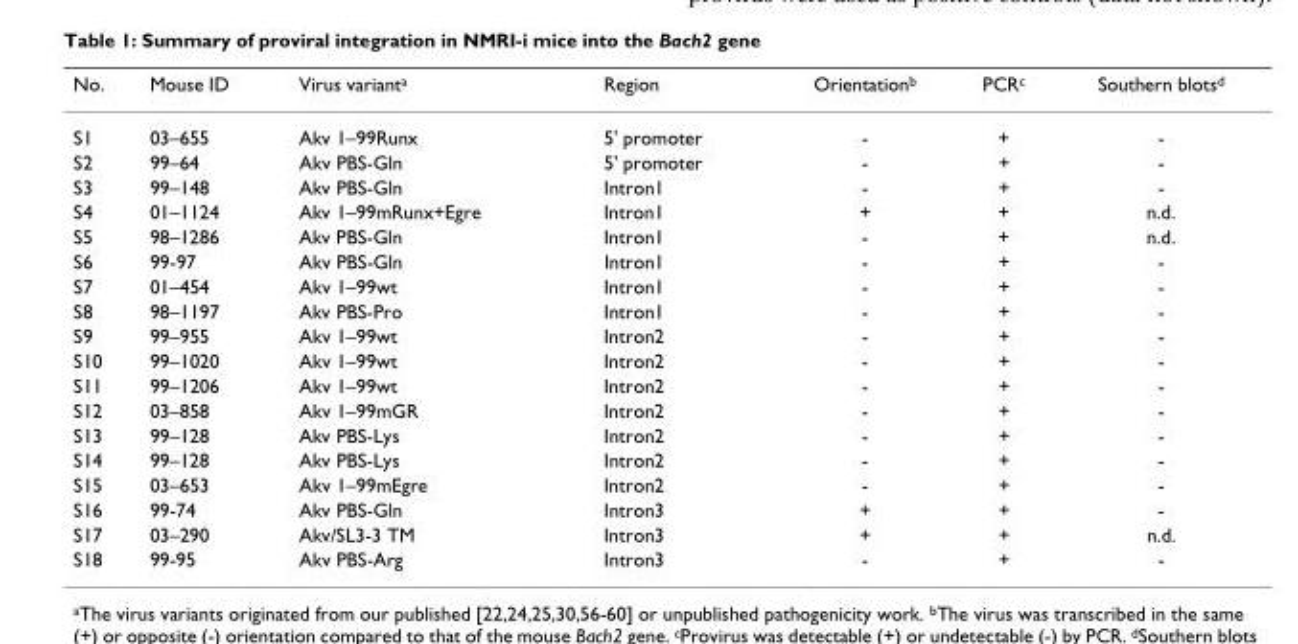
<table><thead><tr><td>No.</td><td>Mouse ID</td><td>Virus variant<sup>a</sup></td><td>Region</td><td>Orientation<sup>b</sup></td><td>PCR<sup>c</sup></td><td>Southern blots<sup>d</sup></td></tr></thead><tbody><tr><td>S1</td><td>03–655</td><td>Akv 1–99Runx</td><td>5&#x27; promoter</td><td>-</td><td>+</td><td>-</td></tr><tr><td>S2</td><td>99–64</td><td>Akv PBS-Gln</td><td>5&#x27; promoter</td><td>-</td><td>+</td><td>-</td></tr><tr><td>S3</td><td>99–148</td><td>Akv PBS-Gln</td><td>Intron1</td><td>-</td><td>+</td><td>-</td></tr><tr><td>S4</td><td>01–1124</td><td>Akv 1–99mRunx+Egre</td><td>Intron1</td><td>+</td><td>+</td><td>n.d.</td></tr><tr><td>S5</td><td>98–1286</td><td>Akv PBS-Gln</td><td>Intron1</td><td>-</td><td>+</td><td>n.d.</td></tr><tr><td>S6</td><td>99-97</td><td>Akv PBS-Gln</td><td>Intron1</td><td>-</td><td>+</td><td>-</td></tr><tr><td>S7</td><td>01–454</td><td>Akv 1–99wt</td><td>Intron1</td><td>-</td><td>+</td><td>-</td></tr><tr><td>S8</td><td>98–1197</td><td>Akv PBS-Pro</td><td>Intron1</td><td>-</td><td>+</td><td>-</td></tr><tr><td>S9</td><td>99–955</td><td>Akv 1–99wt</td><td>Intron2</td><td>-</td><td>+</td><td>-</td></tr><tr><td>S10</td><td>99–1020</td><td>Akv 1–99wt</td><td>Intron2</td><td>-</td><td>+</td><td>-</td></tr><tr><td>S11</td><td>99–1206</td><td>Akv 1–99wt</td><td>Intron2</td><td>-</td><td>+</td><td>-</td></tr><tr><td>S12</td><td>03–858</td><td>Akv 1–99mGR</td><td>Intron2</td><td>-</td><td>+</td><td>-</td></tr><tr><td>S13</td><td>99–128</td><td>Akv PBS-Lys</td><td>Intron2</td><td>-</td><td>+</td><td>-</td></tr><tr><td>S14</td><td>99–128</td><td>Akv PBS-Lys</td><td>Intron2</td><td>-</td><td>+</td><td>-</td></tr><tr><td>S15</td><td>03–653</td><td>Akv 1–99mEgre</td><td>Intron2</td><td>-</td><td>+</td><td>-</td></tr><tr><td>S16</td><td>99-74</td><td>Akv PBS-Gln</td><td>Intron3</td><td>+</td><td>+</td><td>-</td></tr><tr><td>S17</td><td>03–290</td><td>Akv/SL3-3 TM</td><td>Intron3</td><td>+</td><td>+</td><td>n.d.</td></tr><tr><td>S18</td><td>99-95</td><td>Akv PBS-Arg</td><td>Intron3</td><td>-</td><td>+</td><td>-</td></tr></tbody></table>